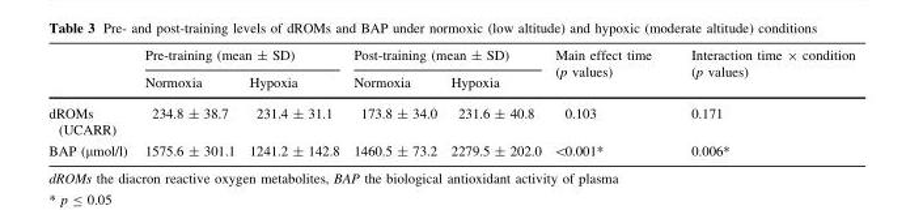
<table><thead><tr><td rowspan="2"></td><td colspan="2">Pre-training (mean ± SD)</td><td colspan="2">Post-training (mean ± SD)</td><td rowspan="2">Main effect time (p values)</td><td rowspan="2">Interaction time × condition (p values)</td></tr><tr><td>Normoxia</td><td>Hypoxia</td><td>Normoxia</td><td>Hypoxia</td></tr></thead><tbody><tr><td>dROMs (UCARR)</td><td>234.8 ± 38.7</td><td>231.4 ± 31.1</td><td>173.8 ± 34.0</td><td>231.6 ± 40.8</td><td>0.103</td><td>0.171</td></tr><tr><td>BAP (μmol/l)</td><td>1575.6 ± 301.1</td><td>1241.2 ± 142.8</td><td>1460.5 ± 73.2</td><td>2279.5 ± 202.0</td><td>&lt;0.001*</td><td>0.006*</td></tr></tbody></table>